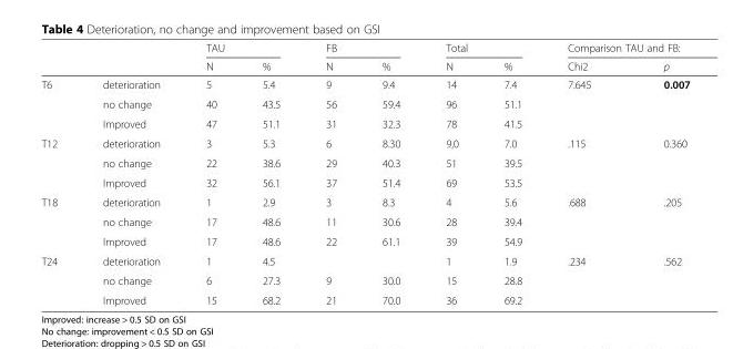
<table><thead><tr><td rowspan="2"></td><td rowspan="2"></td><td colspan="2">TAU</td><td colspan="2">FB</td><td colspan="2">Total</td><td colspan="2">Comparison TAU and FB:</td></tr><tr><td>N</td><td>%</td><td>N</td><td>%</td><td>N</td><td>%</td><td>Chi2</td><td>p</td></tr></thead><tbody><tr><td rowspan="3">T6</td><td>deterioration</td><td>5</td><td>5.4</td><td>9</td><td>9.4</td><td>14</td><td>7.4</td><td rowspan="3">7.645</td><td rowspan="3">0.007</td></tr><tr><td>no change</td><td>40</td><td>43.5</td><td>56</td><td>59.4</td><td>96</td><td>51.1</td></tr><tr><td>Improved</td><td>47</td><td>51.1</td><td>31</td><td>32.3</td><td>78</td><td>41.5</td></tr><tr><td rowspan="3">T12</td><td>deterioration</td><td>3</td><td>5.3</td><td>6</td><td>8.30</td><td>9,0</td><td>7.0</td><td rowspan="3">.115</td><td rowspan="3">0.360</td></tr><tr><td>no change</td><td>22</td><td>38.6</td><td>29</td><td>40.3</td><td>51</td><td>39.5</td></tr><tr><td>Improved</td><td>32</td><td>56.1</td><td>37</td><td>51.4</td><td>69</td><td>53.5</td></tr><tr><td rowspan="3">T18</td><td>deterioration</td><td>1</td><td>2.9</td><td>3</td><td>8.3</td><td>4</td><td>5.6</td><td rowspan="3">.688</td><td rowspan="3">.205</td></tr><tr><td>no change</td><td>17</td><td>48.6</td><td>11</td><td>30.6</td><td>28</td><td>39.4</td></tr><tr><td>Improved</td><td>17</td><td>48.6</td><td>22</td><td>61.1</td><td>39</td><td>54.9</td></tr><tr><td rowspan="3">T24</td><td>deterioration</td><td>1</td><td>4.5</td><td></td><td></td><td>1</td><td>1.9</td><td rowspan="3">.234</td><td rowspan="3">.562</td></tr><tr><td>no change</td><td>6</td><td>27.3</td><td>9</td><td>30.0</td><td>15</td><td>28.8</td></tr><tr><td>Improved</td><td>15</td><td>68.2</td><td>21</td><td>70.0</td><td>36</td><td>69.2</td></tr></tbody></table>